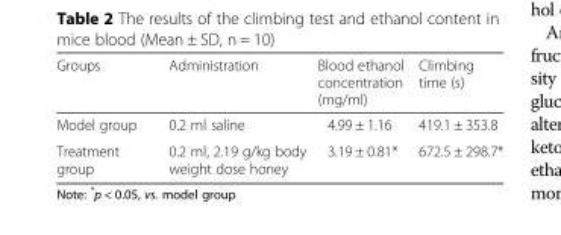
<table><thead><tr><td>Groups</td><td>Administration</td><td>Blood ethanol concentration (mg/ml)</td><td>Climbing time (s)</td></tr></thead><tbody><tr><td>Model group</td><td>0.2 ml saline</td><td>4.99 ± 1.16</td><td>419.1 ± 353.8</td></tr><tr><td>Treatment group</td><td>0.2 ml, 2.19 g/kg body weight dose honey</td><td>3.19 ± 0.81*</td><td>672.5 ± 298.7*</td></tr></tbody></table>